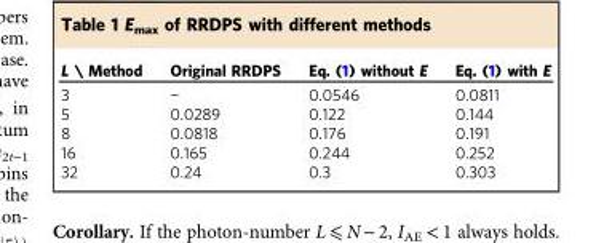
<table><thead><tr><td>L \ Method</td><td>Original RRDPS</td><td>Eq. (1) without E</td><td>Eq. (1) with E</td></tr></thead><tbody><tr><td>3</td><td>−</td><td>0.0546</td><td>0.0811</td></tr><tr><td>5</td><td>0.0289</td><td>0.122</td><td>0.144</td></tr><tr><td>8</td><td>0.0818</td><td>0.176</td><td>0.191</td></tr><tr><td>16</td><td>0.165</td><td>0.244</td><td>0.252</td></tr><tr><td>32</td><td>0.24</td><td>0.3</td><td>0.303</td></tr></tbody></table>